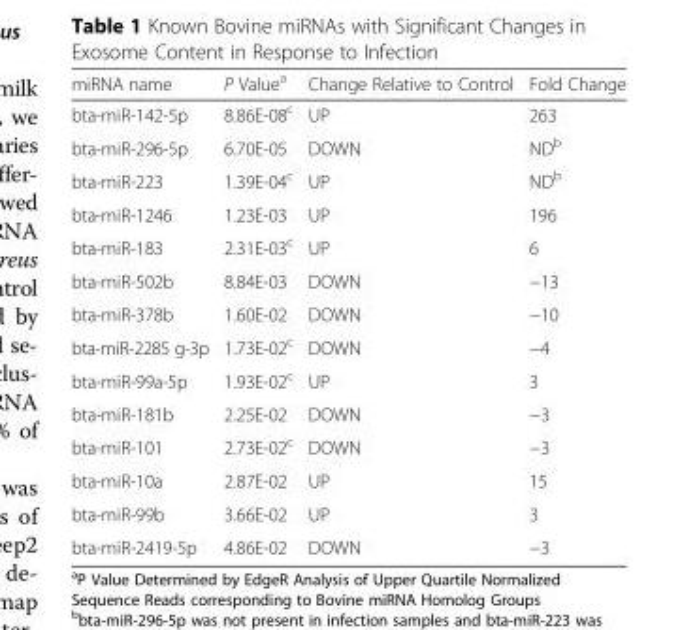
<table><thead><tr><td>miRNA name</td><td>P Value<sup>a</sup></td><td>Change Relative to Control</td><td>Fold Change</td></tr></thead><tbody><tr><td>bta-miR-142-5p</td><td>8.86E-08<sup>c</sup></td><td>UP</td><td>263</td></tr><tr><td>bta-miR-296-5p</td><td>6.70E-05</td><td>DOWN</td><td>ND<sup>b</sup></td></tr><tr><td>bta-miR-223</td><td>1.39E-04<sup>c</sup></td><td>UP</td><td>ND<sup>b</sup></td></tr><tr><td>bta-miR-1246</td><td>1.23E-03</td><td>UP</td><td>196</td></tr><tr><td>bta-miR-183</td><td>2.31E-03<sup>c</sup></td><td>UP</td><td>6</td></tr><tr><td>bta-miR-502b</td><td>8.84E-03</td><td>DOWN</td><td>−13</td></tr><tr><td>bta-miR-378b</td><td>1.60E-02</td><td>DOWN</td><td>−10</td></tr><tr><td>bta-miR-2285 g-3p</td><td>1.73E-02<sup>c</sup></td><td>DOWN</td><td>−4</td></tr><tr><td>bta-miR-99a-5p</td><td>1.93E-02<sup>c</sup></td><td>UP</td><td>3</td></tr><tr><td>bta-miR-181b</td><td>2.25E-02</td><td>DOWN</td><td>−3</td></tr><tr><td>bta-miR-101</td><td>2.73E-02<sup>c</sup></td><td>DOWN</td><td>−3</td></tr><tr><td>bta-miR-10a</td><td>2.87E-02</td><td>UP</td><td>15</td></tr><tr><td>bta-miR-99b</td><td>3.66E-02</td><td>UP</td><td>3</td></tr><tr><td>bta-miR-2419-5p</td><td>4.86E-02</td><td>DOWN</td><td>−3</td></tr></tbody></table>